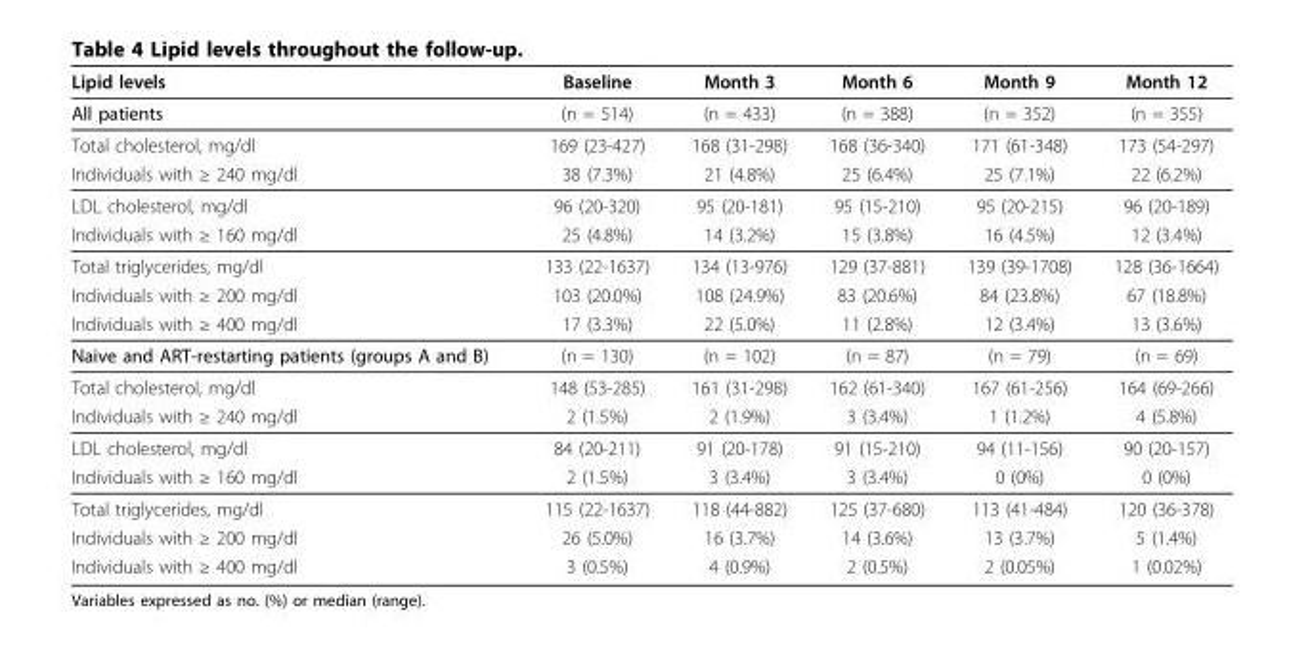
<table><thead><tr><td>Lipid levels</td><td>Baseline</td><td>Month 3</td><td>Month 6</td><td>Month 9</td><td>Month 12</td></tr></thead><tbody><tr><td>All patients</td><td>(n = 514)</td><td>(n = 433)</td><td>(n = 388)</td><td>(n = 352)</td><td>(n = 355)</td></tr><tr><td>Total cholesterol, mg/dl</td><td>169 (23-427)</td><td>168 (31-298)</td><td>168 (36-340)</td><td>171 (61-348)</td><td>173 (54-297)</td></tr><tr><td>Individuals with ≥ 240 mg/dl</td><td>38 (7.3%)</td><td>21 (4.8%)</td><td>25 (6.4%)</td><td>25 (7.1%)</td><td>22 (6.2%)</td></tr><tr><td>LDL cholesterol, mg/dl</td><td>96 (20-320)</td><td>95 (20-181)</td><td>95 (15-210)</td><td>95 (20-215)</td><td>96 (20-189)</td></tr><tr><td>Individuals with ≥ 160 mg/dl</td><td>25 (4.8%)</td><td>14 (3.2%)</td><td>15 (3.8%)</td><td>16 (4.5%)</td><td>12 (3.4%)</td></tr><tr><td>Total triglycerides, mg/dl</td><td>133 (22-1637)</td><td>134 (13-976)</td><td>129 (37-881)</td><td>139 (39-1708)</td><td>128 (36-1664)</td></tr><tr><td>Individuals with ≥ 200 mg/dl</td><td>103 (20.0%)</td><td>108 (24.9%)</td><td>83 (20.6%)</td><td>84 (23.8%)</td><td>67 (18.8%)</td></tr><tr><td>Individuals with ≥ 400 mg/dl</td><td>17 (3.3%)</td><td>22 (5.0%)</td><td>11 (2.8%)</td><td>12 (3.4%)</td><td>13 (3.6%)</td></tr><tr><td>Naive and ART-restarting patients (groups A and B)</td><td>(n = 130)</td><td>(n = 102)</td><td>(n = 87)</td><td>(n = 79)</td><td>(n = 69)</td></tr><tr><td>Total cholesterol, mg/dl</td><td>148 (53-285)</td><td>161 (31-298)</td><td>162 (61-340)</td><td>167 (61-256)</td><td>164 (69-266)</td></tr><tr><td>Individuals with ≥ 240 mg/dl</td><td>2 (1.5%)</td><td>2 (1.9%)</td><td>3 (3.4%)</td><td>1 (1.2%)</td><td>4 (5.8%)</td></tr><tr><td>LDL cholesterol, mg/dl</td><td>84 (20-211)</td><td>91 (20-178)</td><td>91 (15-210)</td><td>94 (11-156)</td><td>90 (20-157)</td></tr><tr><td>Individuals with ≥ 160 mg/dl</td><td>2 (1.5%)</td><td>3 (3.4%)</td><td>3 (3.4%)</td><td>0 (0%)</td><td>0 (0%)</td></tr><tr><td>Total triglycerides, mg/dl</td><td>115 (22-1637)</td><td>118 (44-882)</td><td>125 (37-680)</td><td>113 (41-484)</td><td>120 (36-378)</td></tr><tr><td>Individuals with ≥ 200 mg/dl</td><td>26 (5.0%)</td><td>16 (3.7%)</td><td>14 (3.6%)</td><td>13 (3.7%)</td><td>5 (1.4%)</td></tr><tr><td>Individuals with ≥ 400 mg/dl</td><td>3 (0.5%)</td><td>4 (0.9%)</td><td>2 (0.5%)</td><td>2 (0.05%)</td><td>1 (0.02%)</td></tr></tbody></table>